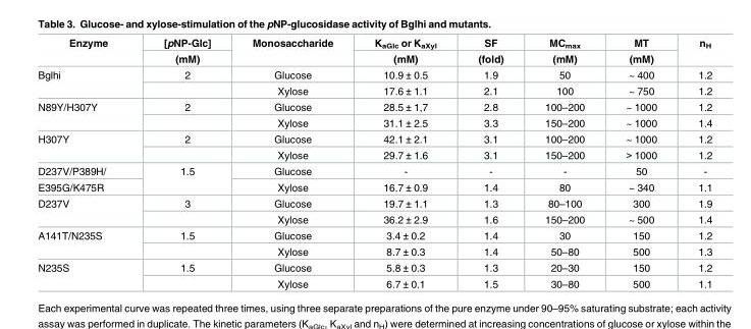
<table><thead><tr><td rowspan="2">Enzyme</td><td rowspan="2">[pNP-Glc] (mM)</td><td rowspan="2">Monosaccharide</td><td rowspan="2">K<sub>aGlc</sub> or K<sub>aXyl</sub> (mM)</td><td rowspan="2">SF (fold)</td><td rowspan="2">MC<sub>max</sub> (mM)</td><td rowspan="2">MT (mM)</td><td rowspan="2">n<sub>H</sub></td></tr><tr></tr></thead><tbody><tr><td rowspan="2">Bglhi</td><td>2</td><td>Glucose</td><td>10.9 ± 0.5</td><td>1.9</td><td>50</td><td>~ 400</td><td>1.2</td></tr><tr><td></td><td>Xylose</td><td>17.6 ± 1.1</td><td>2.1</td><td>100</td><td>~ 750</td><td>1.2</td></tr><tr><td rowspan="2">N89Y/H307Y</td><td>2</td><td>Glucose</td><td>28.5 ± 1,7</td><td>2.8</td><td>100–200</td><td>~ 1000</td><td>1.2</td></tr><tr><td></td><td>Xylose</td><td>31.1 ± 2.5</td><td>3.3</td><td>150–200</td><td>~ 1000</td><td>1.4</td></tr><tr><td rowspan="2">H307Y</td><td>2</td><td>Glucose</td><td>42.1 ± 2.1</td><td>3.1</td><td>100–200</td><td>~ 1000</td><td>1.2</td></tr><tr><td></td><td>Xylose</td><td>29.7 ± 1.6</td><td>3.1</td><td>150–200</td><td>&gt; 1000</td><td>1.2</td></tr><tr><td>D237V/P389H/</td><td rowspan="2">1.5</td><td>Glucose</td><td>-</td><td>-</td><td>-</td><td>50</td><td>-</td></tr><tr><td>E395G/K475R</td><td>Xylose</td><td>16.7 ± 0.9</td><td>1.4</td><td>80</td><td>~ 340</td><td>1.1</td></tr><tr><td rowspan="2">D237V</td><td>3</td><td>Glucose</td><td>19.7 ± 1.1</td><td>1.3</td><td>80–100</td><td>300</td><td>1.9</td></tr><tr><td></td><td>Xylose</td><td>36.2 ± 2.9</td><td>1.6</td><td>150–200</td><td>~ 500</td><td>1.4</td></tr><tr><td rowspan="2">A141T/N235S</td><td>1.5</td><td>Glucose</td><td>3.4 ± 0.2</td><td>1.4</td><td>30</td><td>150</td><td>1.2</td></tr><tr><td></td><td>Xylose</td><td>8.7 ± 0.3</td><td>1.4</td><td>50–80</td><td>500</td><td>1.3</td></tr><tr><td rowspan="2">N235S</td><td>1.5</td><td>Glucose</td><td>5.8 ± 0.3</td><td>1.3</td><td>20–30</td><td>150</td><td>1.2</td></tr><tr><td></td><td>Xylose</td><td>6.7 ± 0.1</td><td>1.5</td><td>30–80</td><td>500</td><td>1.1</td></tr></tbody></table>